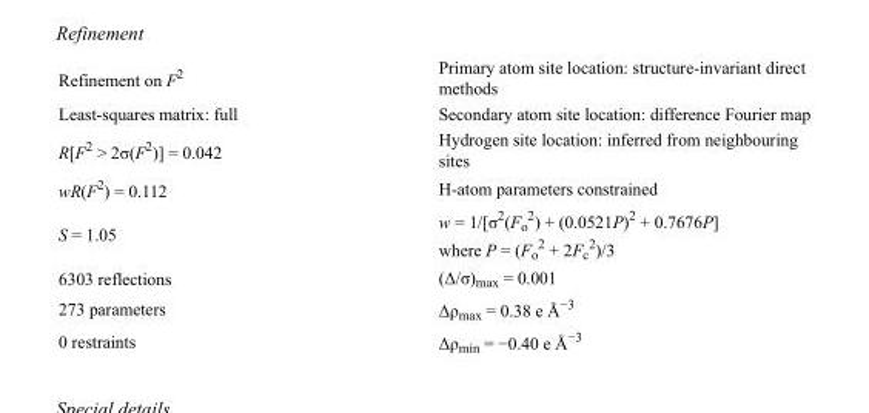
<table><tbody><tr><td>Refinement on F<sup>2</sup></td><td>Primary atom site location: structure-invariant direct methods</td></tr><tr><td>Least-squares matrix: full</td><td>Secondary atom site location: difference Fourier map</td></tr><tr><td>R[F<sup>2</sup> &gt; 2σ(F<sup>2</sup>)] = 0.042</td><td>Hydrogen site location: inferred from neighbouring sites</td></tr><tr><td>wR(F<sup>2</sup>) = 0.112</td><td>H-atom parameters constrained</td></tr><tr><td>S = 1.05</td><td>w = 1/[σ<sup>2</sup>(F<sub>o</sub> <sup>2</sup>) + (0.0521P)<sup>2</sup> + 0.7676P] where P = (F<sub>o</sub> <sup>2</sup> + 2F<sub>c</sub> <sup>2</sup>)/3</td></tr><tr><td>6303 reflections</td><td>(Δ/σ)<sub>max</sub> = 0.001</td></tr><tr><td>273 parameters</td><td>Δρ<sub>max</sub> = 0.38 e Å<sup>−3</sup></td></tr><tr><td>0 restraints</td><td>Δρ<sub>min</sub> = −0.40 e Å<sup>−3</sup></td></tr></tbody></table>